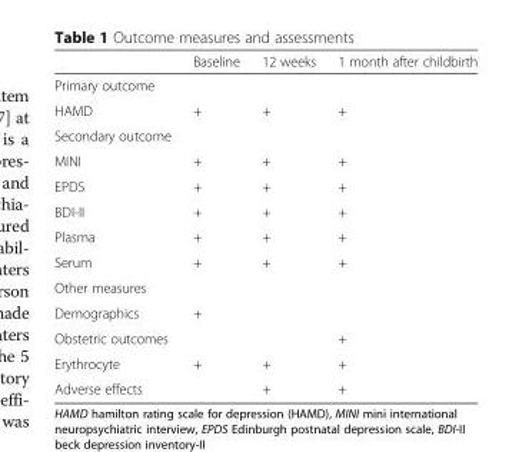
<table><thead><tr><td></td><td>Baseline</td><td>12 weeks</td><td>1 month after childbirth</td></tr></thead><tbody><tr><td colspan="4">Primary outcome</td></tr><tr><td>HAMD</td><td>+</td><td>+</td><td>+</td></tr><tr><td colspan="4">Secondary outcome</td></tr><tr><td>MINI</td><td>+</td><td>+</td><td>+</td></tr><tr><td>EPDS</td><td>+</td><td>+</td><td>+</td></tr><tr><td>BDI-II</td><td>+</td><td>+</td><td>+</td></tr><tr><td>Plasma</td><td>+</td><td>+</td><td>+</td></tr><tr><td>Serum</td><td>+</td><td>+</td><td>+</td></tr><tr><td colspan="4">Other measures</td></tr><tr><td>Demographics</td><td>+</td><td></td><td></td></tr><tr><td>Obstetric outcomes</td><td></td><td></td><td>+</td></tr><tr><td>Erythrocyte</td><td>+</td><td>+</td><td>+</td></tr><tr><td>Adverse effects</td><td></td><td>+</td><td>+</td></tr></tbody></table>